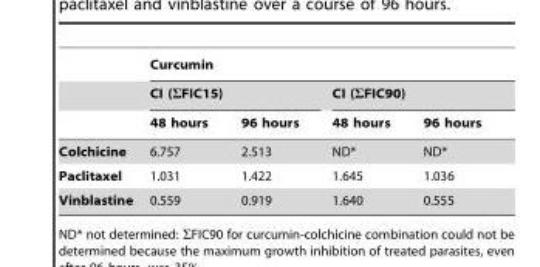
<table><thead><tr><td rowspan="3"></td><td colspan="4">Curcumin</td></tr><tr><td colspan="2">CI (ΣFIC15)</td><td colspan="2">CI (ΣFIC90)</td></tr><tr><td>48 hours</td><td>96 hours</td><td>48 hours</td><td>96 hours</td></tr></thead><tbody><tr><td>Colchicine</td><td>6.757</td><td>2.513</td><td>ND*</td><td>ND*</td></tr><tr><td>Paclitaxel</td><td>1.031</td><td>1.422</td><td>1.645</td><td>1.036</td></tr><tr><td>Vinblastine</td><td>0.559</td><td>0.919</td><td>1.640</td><td>0.555</td></tr></tbody></table>